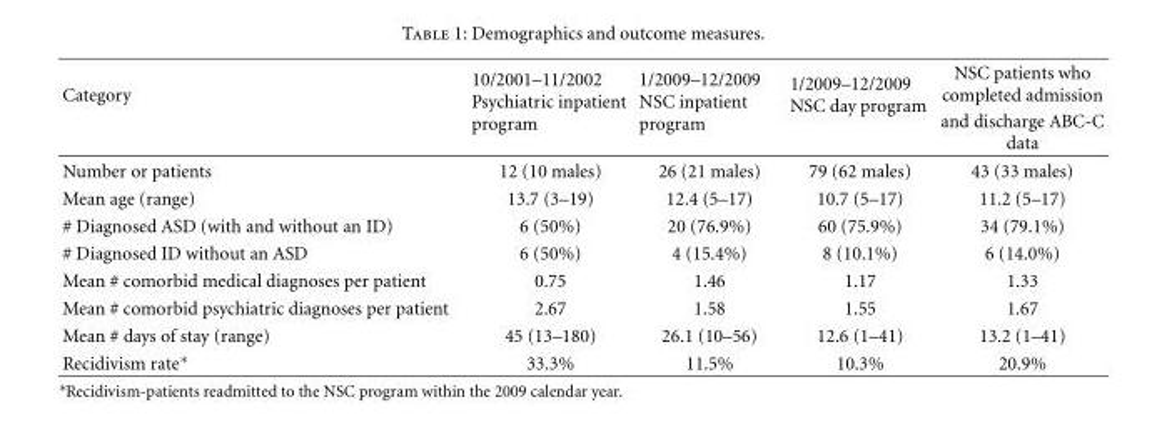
<table><thead><tr><td>Category</td><td>10/2001–11/2002 Psychiatric inpatient program</td><td>1/2009–12/2009 NSC inpatient program</td><td>1/2009–12/2009 NSC day program</td><td>NSC patients who completed admission and discharge ABC-C data</td></tr></thead><tbody><tr><td>Number or patients</td><td>12 (10 males)</td><td>26 (21 males)</td><td>79 (62 males)</td><td>43 (33 males)</td></tr><tr><td>Mean age (range)</td><td>13.7 (3–19)</td><td>12.4 (5–17)</td><td>10.7 (5–17)</td><td>11.2 (5–17)</td></tr><tr><td># Diagnosed ASD (with and without an ID)</td><td>6 (50%)</td><td>20 (76.9%)</td><td>60 (75.9%)</td><td>34 (79.1%)</td></tr><tr><td># Diagnosed ID without an ASD</td><td>6 (50%)</td><td>4 (15.4%)</td><td>8 (10.1%)</td><td>6 (14.0%)</td></tr><tr><td>Mean # comorbid medical diagnoses per patient</td><td>0.75</td><td>1.46</td><td>1.17</td><td>1.33</td></tr><tr><td>Mean # comorbid psychiatric diagnoses per patient</td><td>2.67</td><td>1.58</td><td>1.55</td><td>1.67</td></tr><tr><td>Mean # days of stay (range)</td><td>45 (13–180)</td><td>26.1 (10–56)</td><td>12.6 (1–41)</td><td>13.2 (1–41)</td></tr><tr><td>Recidivism rate∗</td><td>33.3%</td><td>11.5%</td><td>10.3%</td><td>20.9%</td></tr></tbody></table>